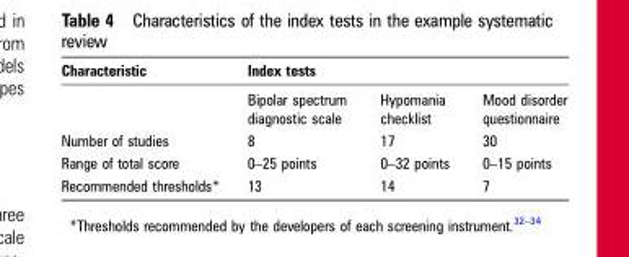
<table><thead><tr><td rowspan="2">Characteristic</td><td colspan="3">Index tests</td></tr><tr><td>Bipolar spectrum diagnostic scale</td><td>Hypomania checklist</td><td>Mood disorder questionnaire</td></tr></thead><tbody><tr><td>Number of studies</td><td>8</td><td>17</td><td>30</td></tr><tr><td>Range of total score</td><td>0–25 points</td><td>0–32 points</td><td>0–15 points</td></tr><tr><td>Recommended thresholds*</td><td>13</td><td>14</td><td>7</td></tr></tbody></table>